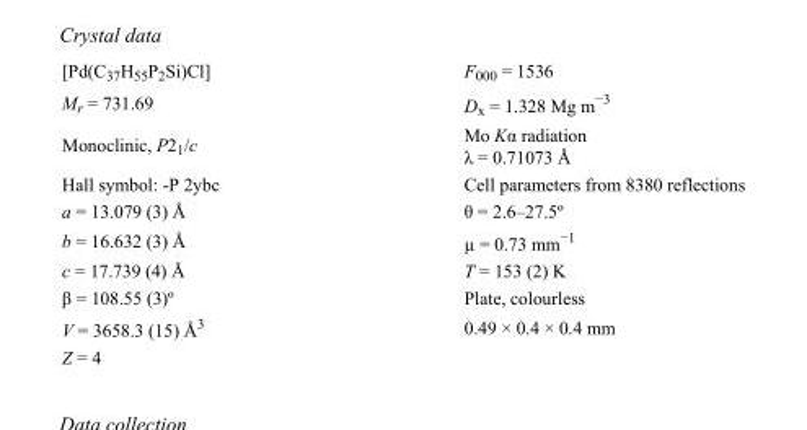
<table><tbody><tr><td>[Pd(C<sub>37</sub>H<sub>55</sub>P<sub>2</sub>Si)Cl]</td><td>F000 = 1536</td></tr><tr><td>M<sub>r</sub> = 731.69</td><td>D<sub>x</sub> = 1.328 Mg m<sup>−3</sup></td></tr><tr><td>Monoclinic, P2<sub>1</sub>/c</td><td>Mo Kα radiation λ = 0.71073 Å</td></tr><tr><td>Hall symbol: -P 2ybc</td><td>Cell parameters from 8380 reflections</td></tr><tr><td>a = 13.079 (3) Å</td><td>θ = 2.6–27.5º</td></tr><tr><td>b = 16.632 (3) Å</td><td>µ = 0.73 mm<sup>−1</sup></td></tr><tr><td>c = 17.739 (4) Å</td><td>T = 153 (2) K</td></tr><tr><td>β = 108.55 (3)º</td><td>Plate, colourless</td></tr><tr><td>V = 3658.3 (15) Å<sup>3</sup></td><td>0.49 × 0.4 × 0.4 mm</td></tr><tr><td>Z = 4</td><td></td></tr></tbody></table>